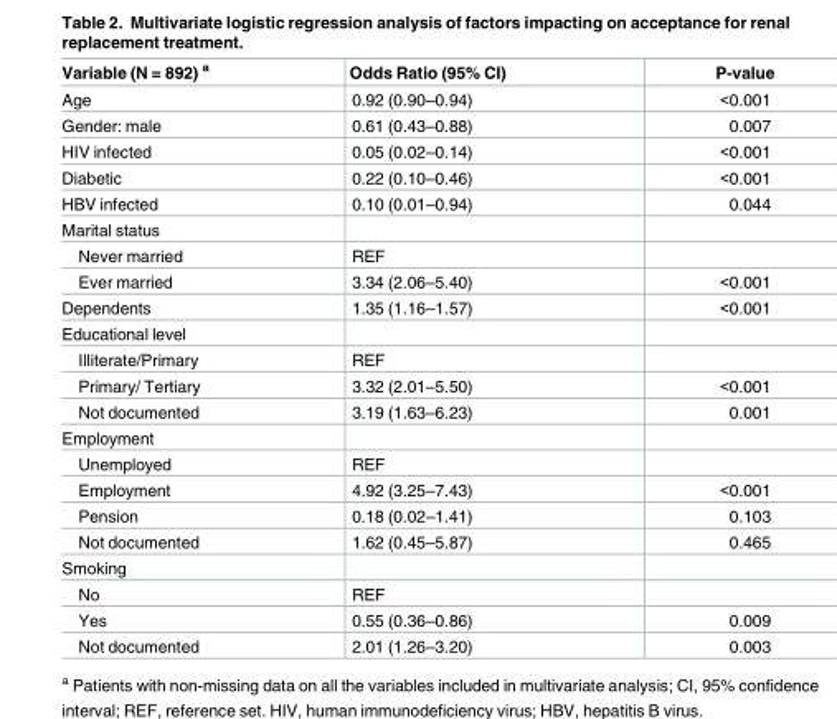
<table><thead><tr><td>Variable (N = 892) <sup>a</sup></td><td>Odds Ratio (95% CI)</td><td>P-value</td></tr></thead><tbody><tr><td>Age</td><td>0.92 (0.90–0.94)</td><td>&lt;0.001</td></tr><tr><td>Gender: male</td><td>0.61 (0.43–0.88)</td><td>0.007</td></tr><tr><td>HIV infected</td><td>0.05 (0.02–0.14)</td><td>&lt;0.001</td></tr><tr><td>Diabetic</td><td>0.22 (0.10–0.46)</td><td>&lt;0.001</td></tr><tr><td>HBV infected</td><td>0.10 (0.01–0.94)</td><td>0.044</td></tr><tr><td colspan="3">Marital status</td></tr><tr><td>Never married</td><td>REF</td><td></td></tr><tr><td>Ever married</td><td>3.34 (2.06–5.40)</td><td>&lt;0.001</td></tr><tr><td>Dependents</td><td>1.35 (1.16–1.57)</td><td>&lt;0.001</td></tr><tr><td colspan="3">Educational level</td></tr><tr><td>Illiterate/Primary</td><td>REF</td><td></td></tr><tr><td>Primary/ Tertiary</td><td>3.32 (2.01–5.50)</td><td>&lt;0.001</td></tr><tr><td>Not documented</td><td>3.19 (1.63–6.23)</td><td>0.001</td></tr><tr><td colspan="3">Employment</td></tr><tr><td>Unemployed</td><td>REF</td><td></td></tr><tr><td>Employment</td><td>4.92 (3.25–7.43)</td><td>&lt;0.001</td></tr><tr><td>Pension</td><td>0.18 (0.02–1.41)</td><td>0.103</td></tr><tr><td>Not documented</td><td>1.62 (0.45–5.87)</td><td>0.465</td></tr><tr><td colspan="3">Smoking</td></tr><tr><td>No</td><td>REF</td><td></td></tr><tr><td>Yes</td><td>0.55 (0.36–0.86)</td><td>0.009</td></tr><tr><td>Not documented</td><td>2.01 (1.26–3.20)</td><td>0.003</td></tr></tbody></table>